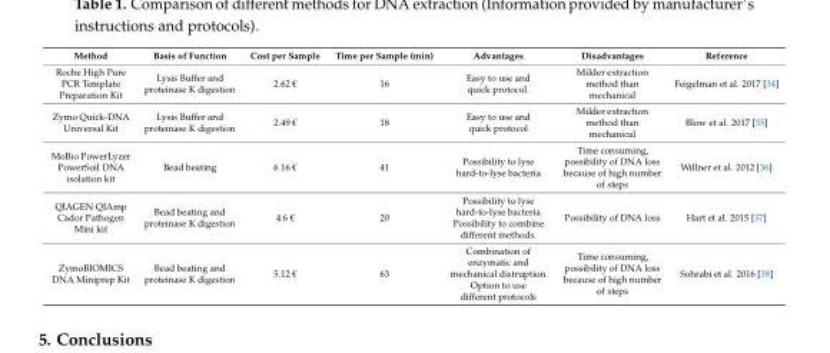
<table><thead><tr><td>Method</td><td>Basis of Function</td><td>Cost per Sample</td><td>Time per Sample (min)</td><td>Advantages</td><td>Disadvantages</td><td>Reference</td></tr></thead><tbody><tr><td>Roche High Pure PCR Template Preparation Kit</td><td>Lysis Buffer and proteinase K digestion</td><td>2.62 €</td><td>16</td><td>Easy to use and quick protocol.</td><td>Milder extraction method than mechanical</td><td>Feigelman et al. 2017 [34]</td></tr><tr><td>Zymo Quick-DNA Universal Kit</td><td>Lysis Buffer and proteinase K digestion</td><td>2.49 €</td><td>18</td><td>Easy to use and quick protocol</td><td>Milder extraction method than mechanical</td><td>Blow et al. 2017 [35]</td></tr><tr><td>MoBio PowerLyzer PowerSoil DNA isolation kit</td><td>Bead beating</td><td>6.16 €</td><td>41</td><td>Possibility to lyse hard-to-lyse bacteria</td><td>Time consuming, possibility of DNA loss because of high number of steps</td><td>Willner et al. 2012 [36]</td></tr><tr><td>QIAGEN QIAmp Cador Pathogen Mini kit</td><td>Bead beating and proteinase K digestion</td><td>4.6 €</td><td>20</td><td>Possibility to lyse hard-to-lyse bacteria. Possibility to combine different methods.</td><td>Possibility of DNA loss</td><td>Hart et al. 2015 [37]</td></tr><tr><td>ZymoBIOMICS DNA Miniprep Kit</td><td>Bead beating and proteinase K digestion</td><td>5.12 €</td><td>63</td><td>Combination of enzymatic and mechanical distruption. Option to use different protocols</td><td>Time consuming, possibility of DNA loss because of high number of steps</td><td>Sohrabi et al. 2016 [38]</td></tr></tbody></table>